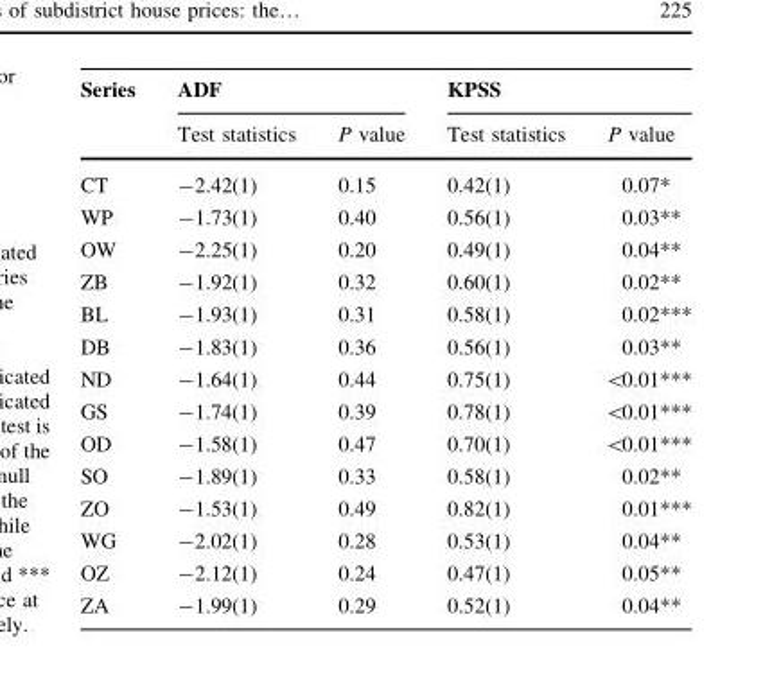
<table><thead><tr><td rowspan="2">Series</td><td colspan="2">ADF</td><td colspan="2">KPSS</td></tr><tr><td>Test statistics</td><td>P value</td><td>Test statistics</td><td>P value</td></tr></thead><tbody><tr><td>CT</td><td>-2.42(1)</td><td>0.15</td><td>0.42(1)</td><td>0.07*</td></tr><tr><td>WP</td><td>-1.73(1)</td><td>0.40</td><td>0.56(1)</td><td>0.03**</td></tr><tr><td>OW</td><td>-2.25(1)</td><td>0.20</td><td>0.49(1)</td><td>0.04**</td></tr><tr><td>ZB</td><td>-1.92(1)</td><td>0.32</td><td>0.60(1)</td><td>0.02**</td></tr><tr><td>BL</td><td>-1.93(1)</td><td>0.31</td><td>0.58(1)</td><td>0.02***</td></tr><tr><td>DB</td><td>-1.83(1)</td><td>0.36</td><td>0.56(1)</td><td>0.03**</td></tr><tr><td>ND</td><td>-1.64(1)</td><td>0.44</td><td>0.75(1)</td><td>&lt;0.01***</td></tr><tr><td>GS</td><td>-1.74(1)</td><td>0.39</td><td>0.78(1)</td><td>&lt;0.01***</td></tr><tr><td>OD</td><td>-1.58(1)</td><td>0.47</td><td>0.70(1)</td><td>&lt;0.01***</td></tr><tr><td>SO</td><td>-1.89(1)</td><td>0.33</td><td>0.58(1)</td><td>0.02**</td></tr><tr><td>ZO</td><td>-1.53(1)</td><td>0.49</td><td>0.82(1)</td><td>0.01***</td></tr><tr><td>WG</td><td>-2.02(1)</td><td>0.28</td><td>0.53(1)</td><td>0.04**</td></tr><tr><td>OZ</td><td>-2.12(1)</td><td>0.24</td><td>0.47(1)</td><td>0.05**</td></tr><tr><td>ZA</td><td>-1.99(1)</td><td>0.29</td><td>0.52(1)</td><td>0.04**</td></tr></tbody></table>